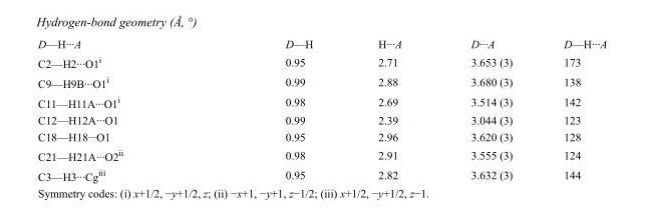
<table><tbody><tr><td>D—H···A</td><td>D—H</td><td>H···A</td><td>D···A</td><td>D—H···A</td></tr><tr><td>C2—H2···O1<sup>i</sup></td><td>0.95</td><td>2.71</td><td>3.653 (3)</td><td>173</td></tr><tr><td>C9—H9B···O1<sup>i</sup></td><td>0.99</td><td>2.88</td><td>3.680 (3)</td><td>138</td></tr><tr><td>C11—H11A···O1<sup>i</sup></td><td>0.98</td><td>2.69</td><td>3.514 (3)</td><td>142</td></tr><tr><td>C12—H12A···O1</td><td>0.99</td><td>2.39</td><td>3.044 (3)</td><td>123</td></tr><tr><td>C18—H18···O1</td><td>0.95</td><td>2.96</td><td>3.620 (3)</td><td>128</td></tr><tr><td>C21—H21A···O2<sup>ii</sup></td><td>0.98</td><td>2.91</td><td>3.555 (3)</td><td>124</td></tr><tr><td>C3—H3···Cg<sup>iii</sup></td><td>0.95</td><td>2.82</td><td>3.632 (3)</td><td>144</td></tr></tbody></table>